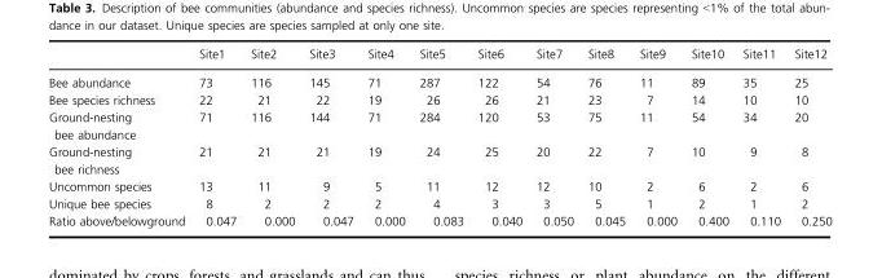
<table><thead><tr><td></td><td>Site1</td><td>Site2</td><td>Site3</td><td>Site4</td><td>Site5</td><td>Site6</td><td>Site7</td><td>Site8</td><td>Site9</td><td>Site10</td><td>Site11</td><td>Site12</td></tr></thead><tbody><tr><td>Bee abundance</td><td>73</td><td>116</td><td>145</td><td>71</td><td>287</td><td>122</td><td>54</td><td>76</td><td>11</td><td>89</td><td>35</td><td>25</td></tr><tr><td>Bee species richness</td><td>22</td><td>21</td><td>22</td><td>19</td><td>26</td><td>26</td><td>21</td><td>23</td><td>7</td><td>14</td><td>10</td><td>10</td></tr><tr><td>Ground-nesting bee abundance</td><td>71</td><td>116</td><td>144</td><td>71</td><td>284</td><td>120</td><td>53</td><td>75</td><td>11</td><td>54</td><td>34</td><td>20</td></tr><tr><td>Ground-nesting bee richness</td><td>21</td><td>21</td><td>21</td><td>19</td><td>24</td><td>25</td><td>20</td><td>22</td><td>7</td><td>10</td><td>9</td><td>8</td></tr><tr><td>Uncommon species</td><td>13</td><td>11</td><td>9</td><td>5</td><td>11</td><td>12</td><td>12</td><td>10</td><td>2</td><td>6</td><td>2</td><td>6</td></tr><tr><td>Unique bee species</td><td>8</td><td>2</td><td>2</td><td>2</td><td>4</td><td>3</td><td>3</td><td>5</td><td>1</td><td>2</td><td>1</td><td>2</td></tr><tr><td>Ratio above/belowground</td><td>0.047</td><td>0.000</td><td>0.047</td><td>0.000</td><td>0.083</td><td>0.040</td><td>0.050</td><td>0.045</td><td>0.000</td><td>0.400</td><td>0.110</td><td>0.250</td></tr></tbody></table>